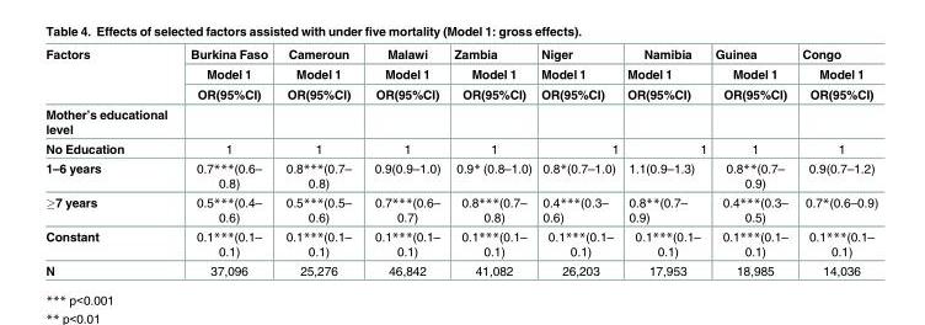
<table><thead><tr><td rowspan="3">Factors</td><td rowspan="3">Burkina Faso Model 1 OR(95%CI)</td><td rowspan="3">Cameroun Model 1 OR(95%CI)</td><td rowspan="3">Malawi Model 1 OR(95%CI)</td><td rowspan="3">Zambia Model 1 OR(95%CI)</td><td rowspan="3">Niger Model 1 OR(95%CI)</td><td rowspan="3">Namibia Model 1 OR(95%CI)</td><td rowspan="3">Guinea Model 1 OR(95%CI)</td><td rowspan="3">Congo Model 1 OR(95%CI)</td></tr><tr></tr><tr></tr></thead><tbody><tr><td colspan="9">Mother’s educational level</td></tr><tr><td>No Education</td><td>1</td><td>1</td><td>1</td><td>1</td><td>1</td><td>1</td><td>1</td><td>1</td></tr><tr><td>1–6 years</td><td>0.7***(0.6– 0.8)</td><td>0.8***(0.7– 0.8)</td><td>0.9(0.9–1.0)</td><td>0.9* (0.8–1.0)</td><td>0.8*(0.7–1.0)</td><td>1.1(0.9–1.3)</td><td>0.8**(0.7– 0.9)</td><td>0.9(0.7–1.2)</td></tr><tr><td>≥7 years</td><td>0.5***(0.4– 0.6)</td><td>0.5***(0.5– 0.6)</td><td>0.7***(0.6– 0.7)</td><td>0.8***(0.7– 0.8)</td><td>0.4***(0.3– 0.6)</td><td>0.8**(0.7– 0.9)</td><td>0.4***(0.3– 0.5)</td><td>0.7*(0.6–0.9)</td></tr><tr><td>Constant</td><td>0.1***(0.1– 0.1)</td><td>0.1***(0.1– 0.1)</td><td>0.1***(0.1– 0.1)</td><td>0.1***(0.1– 0.1)</td><td>0.1***(0.1– 0.1)</td><td>0.1***(0.1– 0.1)</td><td>0.1***(0.1– 0.1)</td><td>0.1***(0.1– 0.1)</td></tr><tr><td>N</td><td>37,096</td><td>25,276</td><td>46,842</td><td>41,082</td><td>26,203</td><td>17,953</td><td>18,985</td><td>14,036</td></tr></tbody></table>